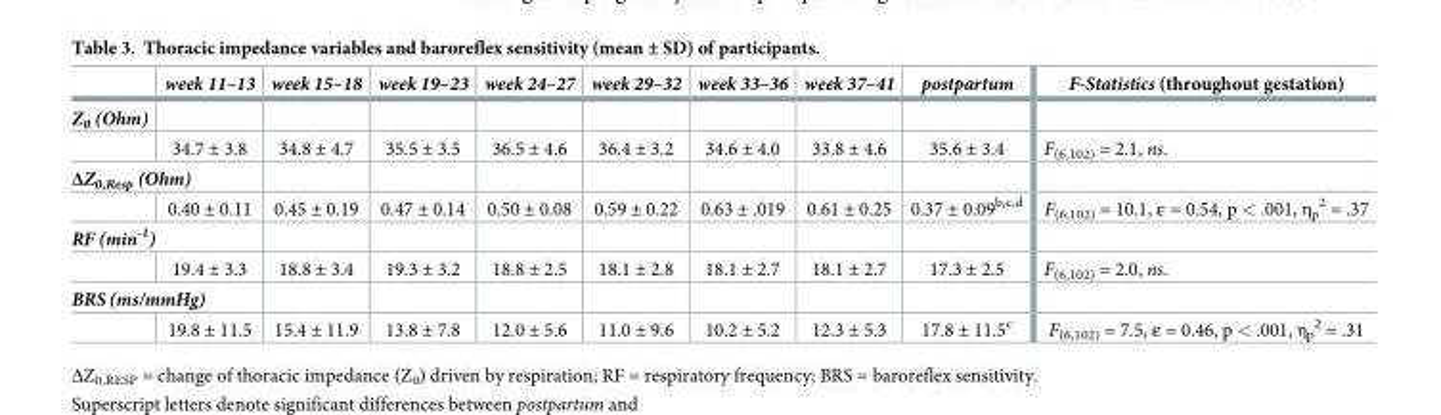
<table><thead><tr><td></td><td>week 11–13</td><td>week 15–18</td><td>week 19–23</td><td>week 24–27</td><td>week 29–32</td><td>week 33–36</td><td>week 37–41</td><td>postpartum</td><td>F-Statistics (throughout gestation)</td></tr></thead><tbody><tr><td colspan="10">Z<sub>0</sub> (Ohm)</td></tr><tr><td></td><td>34.7 ± 3.8</td><td>34.8 ± 4.7</td><td>35.5 ± 3.5</td><td>36.5 ± 4.6</td><td>36.4 ± 3.2</td><td>34.6 ± 4.0</td><td>33.8 ± 4.6</td><td>35.6 ± 3.4</td><td>F<sub>(6,102)</sub> = 2.1, ns.</td></tr><tr><td colspan="10">ΔZ<sub>0,Resp</sub> (Ohm)</td></tr><tr><td></td><td>0.40 ± 0.11</td><td>0.45 ± 0.19</td><td>0.47 ± 0.14</td><td>0.50 ± 0.08</td><td>0.59 ± 0.22</td><td>0.63 ± .019</td><td>0.61 ± 0.25</td><td>0.37 ± 0.09<sup>b,c,d</sup></td><td>F<sub>(6,102)</sub> = 10.1, ε = 0.54, p &lt; .001, η<sub>p</sub> <sup>2</sup> = .37</td></tr><tr><td colspan="10">RF (min<sup>-1</sup>)</td></tr><tr><td></td><td>19.4 ± 3.3</td><td>18.8 ± 3.4</td><td>19.3 ± 3.2</td><td>18.8 ± 2.5</td><td>18.1 ± 2.8</td><td>18.1 ± 2.7</td><td>18.1 ± 2.7</td><td>17.3 ± 2.5</td><td>F<sub>(6,102)</sub> = 2.0, ns.</td></tr><tr><td colspan="10">BRS (ms/mmHg)</td></tr><tr><td></td><td>19.8 ± 11.5</td><td>15.4 ± 11.9</td><td>13.8 ± 7.8</td><td>12.0 ± 5.6</td><td>11.0 ± 9.6</td><td>10.2 ± 5.2</td><td>12.3 ± 5.3</td><td>17.8 ± 11.5<sup>c</sup></td><td>F<sub>(6,102)</sub> = 7.5, ε = 0.46, p &lt; .001, η<sub>p</sub> <sup>2</sup> = .31</td></tr></tbody></table>